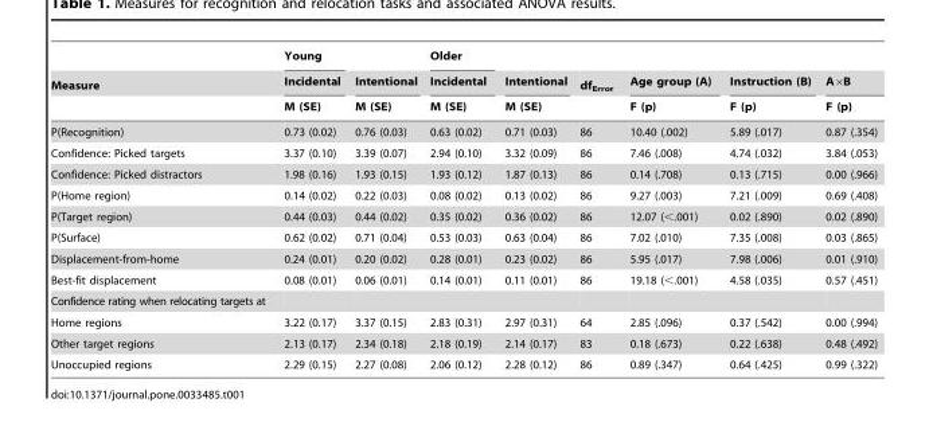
<table><thead><tr><td rowspan="3">Measure</td><td rowspan="3">Young Incidental M (SE)</td><td rowspan="3">Intentional M (SE)</td><td rowspan="3">Older Incidental M (SE)</td><td rowspan="3">Intentional M (SE)</td><td rowspan="3">df<sub>Error</sub></td><td rowspan="3">Age group (A) F (p)</td><td rowspan="3">Instruction (B) F (p)</td><td rowspan="3">A×B F (p)</td></tr><tr></tr><tr></tr></thead><tbody><tr><td>P(Recognition)</td><td>0.73 (0.02)</td><td>0.76 (0.03)</td><td>0.63 (0.02)</td><td>0.71 (0.03)</td><td>86</td><td>10.40 (.002)</td><td>5.89 (.017)</td><td>0.87 (.354)</td></tr><tr><td>Confidence: Picked targets</td><td>3.37 (0.10)</td><td>3.39 (0.07)</td><td>2.94 (0.10)</td><td>3.32 (0.09)</td><td>86</td><td>7.46 (.008)</td><td>4.74 (.032)</td><td>3.84 (.053)</td></tr><tr><td>Confidence: Picked distractors</td><td>1.98 (0.16)</td><td>1.93 (0.15)</td><td>1.93 (0.12)</td><td>1.87 (0.13)</td><td>86</td><td>0.14 (.708)</td><td>0.13 (.715)</td><td>0.00 (.966)</td></tr><tr><td>P(Home region)</td><td>0.14 (0.02)</td><td>0.22 (0.03)</td><td>0.08 (0.02)</td><td>0.13 (0.02)</td><td>86</td><td>9.27 (.003)</td><td>7.21 (.009)</td><td>0.69 (.408)</td></tr><tr><td>P(Target region)</td><td>0.44 (0.03)</td><td>0.44 (0.02)</td><td>0.35 (0.02)</td><td>0.36 (0.02)</td><td>86</td><td>12.07 (&lt;.001)</td><td>0.02 (.890)</td><td>0.02 (.890)</td></tr><tr><td>P(Surface)</td><td>0.62 (0.02)</td><td>0.71 (0.04)</td><td>0.53 (0.03)</td><td>0.63 (0.04)</td><td>86</td><td>7.02 (.010)</td><td>7.35 (.008)</td><td>0.03 (.865)</td></tr><tr><td>Displacement-from-home</td><td>0.24 (0.01)</td><td>0.20 (0.02)</td><td>0.28 (0.01)</td><td>0.23 (0.02)</td><td>86</td><td>5.95 (.017)</td><td>7.98 (.006)</td><td>0.01 (.910)</td></tr><tr><td>Best-fit displacement</td><td>0.08 (0.01)</td><td>0.06 (0.01)</td><td>0.14 (0.01)</td><td>0.11 (0.01)</td><td>86</td><td>19.18 (&lt;.001)</td><td>4.58 (.035)</td><td>0.57 (.451)</td></tr><tr><td colspan="9">Confidence rating when relocating targets at</td></tr><tr><td>Home regions</td><td>3.22 (0.17)</td><td>3.37 (0.15)</td><td>2.83 (0.31)</td><td>2.97 (0.31)</td><td>64</td><td>2.85 (.096)</td><td>0.37 (.542)</td><td>0.00 (.994)</td></tr><tr><td>Other target regions</td><td>2.13 (0.17)</td><td>2.34 (0.18)</td><td>2.18 (0.19)</td><td>2.14 (0.17)</td><td>83</td><td>0.18 (.673)</td><td>0.22 (.638)</td><td>0.48 (.492)</td></tr><tr><td>Unoccupied regions</td><td>2.29 (0.15)</td><td>2.27 (0.08)</td><td>2.06 (0.12)</td><td>2.28 (0.12)</td><td>86</td><td>0.89 (.347)</td><td>0.64 (.425)</td><td>0.99 (.322)</td></tr></tbody></table>